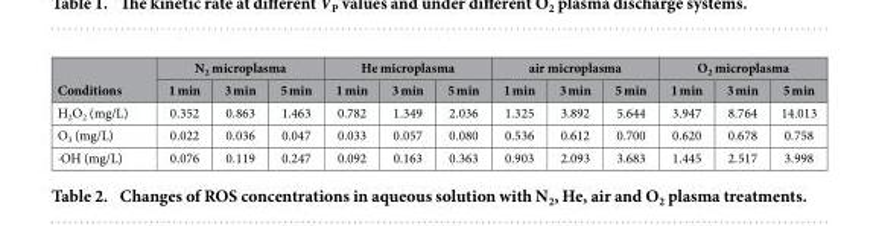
<table><thead><tr><td rowspan="2">Conditions</td><td colspan="3">N<sub>2</sub> microplasma</td><td colspan="3">He microplasma</td><td colspan="3">air microplasma</td><td colspan="3">O<sub>2</sub> microplasma</td></tr><tr><td>1 min</td><td>3 min</td><td>5 min</td><td>1 min</td><td>3 min</td><td>5 min</td><td>1 min</td><td>3 min</td><td>5 min</td><td>1 min</td><td>3 min</td><td>5 min</td></tr></thead><tbody><tr><td>H<sub>2</sub>O<sub>2</sub> (mg/L)</td><td>0.352</td><td>0.863</td><td>1.463</td><td>0.782</td><td>1.349</td><td>2.036</td><td>1.325</td><td>3.892</td><td>5.644</td><td>3.947</td><td>8.764</td><td>14.013</td></tr><tr><td>O<sub>3</sub> (mg/L)</td><td>0.022</td><td>0.036</td><td>0.047</td><td>0.033</td><td>0.057</td><td>0.080</td><td>0.536</td><td>0.612</td><td>0.700</td><td>0.620</td><td>0.678</td><td>0.758</td></tr><tr><td>·OH (mg/L)</td><td>0.076</td><td>0.119</td><td>0.247</td><td>0.092</td><td>0.163</td><td>0.363</td><td>0.903</td><td>2.093</td><td>3.683</td><td>1.445</td><td>2.517</td><td>3.998</td></tr></tbody></table>